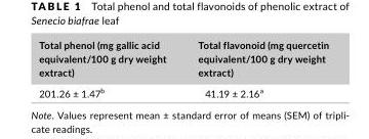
<table><thead><tr><td>Total phenol (mg gallic acid equivalent/100 g dry weight extract)</td><td>Total flavonoid (mg quercetin equivalent/100 g dry weight extract)</td></tr></thead><tbody><tr><td>201.26 ± 1.47<sup>b</sup></td><td>41.19 ± 2.16<sup>a</sup></td></tr></tbody></table>